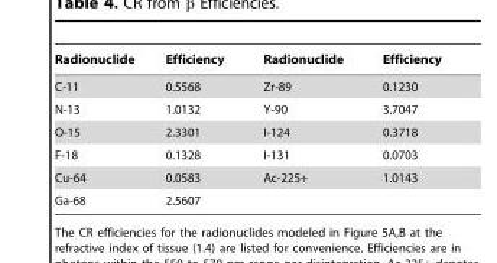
<table><thead><tr><td>Radionuclide</td><td>Efficiency</td><td>Radionuclide</td><td>Efficiency</td></tr></thead><tbody><tr><td>C-11</td><td>0.5568</td><td>Zr-89</td><td>0.1230</td></tr><tr><td>N-13</td><td>1.0132</td><td>Y-90</td><td>3.7047</td></tr><tr><td>O-15</td><td>2.3301</td><td>I-124</td><td>0.3718</td></tr><tr><td>F-18</td><td>0.1328</td><td>I-131</td><td>0.0703</td></tr><tr><td>Cu-64</td><td>0.0583</td><td>Ac-225+</td><td>1.0143</td></tr><tr><td>Ga-68</td><td>2.5607</td><td></td><td></td></tr></tbody></table>